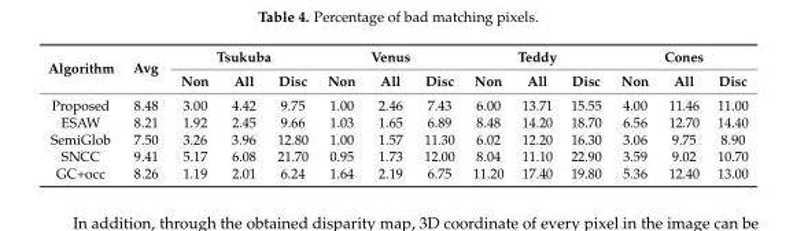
<table><thead><tr><td rowspan="2">Algorithm</td><td rowspan="2">Avg</td><td colspan="3">Tsukuba</td><td colspan="3">Venus</td><td colspan="3">Teddy</td><td colspan="3">Cones</td></tr><tr><td>Non</td><td>All</td><td>Disc</td><td>Non</td><td>All</td><td>Disc</td><td>Non</td><td>All</td><td>Disc</td><td>Non</td><td>All</td><td>Disc</td></tr></thead><tbody><tr><td>Proposed</td><td>8.48</td><td>3.00</td><td>4.42</td><td>9.75</td><td>1.00</td><td>2.46</td><td>7.43</td><td>6.00</td><td>13.71</td><td>15.55</td><td>4.00</td><td>11.46</td><td>11.00</td></tr><tr><td>ESAW</td><td>8.21</td><td>1.92</td><td>2.45</td><td>9.66</td><td>1.03</td><td>1.65</td><td>6.89</td><td>8.48</td><td>14.20</td><td>18.70</td><td>6.56</td><td>12.70</td><td>14.40</td></tr><tr><td>SemiGlob</td><td>7.50</td><td>3.26</td><td>3.96</td><td>12.80</td><td>1.00</td><td>1.57</td><td>11.30</td><td>6.02</td><td>12.20</td><td>16.30</td><td>3.06</td><td>9.75</td><td>8.90</td></tr><tr><td>SNCC</td><td>9.41</td><td>5.17</td><td>6.08</td><td>21.70</td><td>0.95</td><td>1.73</td><td>12.00</td><td>8.04</td><td>11.10</td><td>22.90</td><td>3.59</td><td>9.02</td><td>10.70</td></tr><tr><td>GC+occ</td><td>8.26</td><td>1.19</td><td>2.01</td><td>6.24</td><td>1.64</td><td>2.19</td><td>6.75</td><td>11.20</td><td>17.40</td><td>19.80</td><td>5.36</td><td>12.40</td><td>13.00</td></tr></tbody></table>